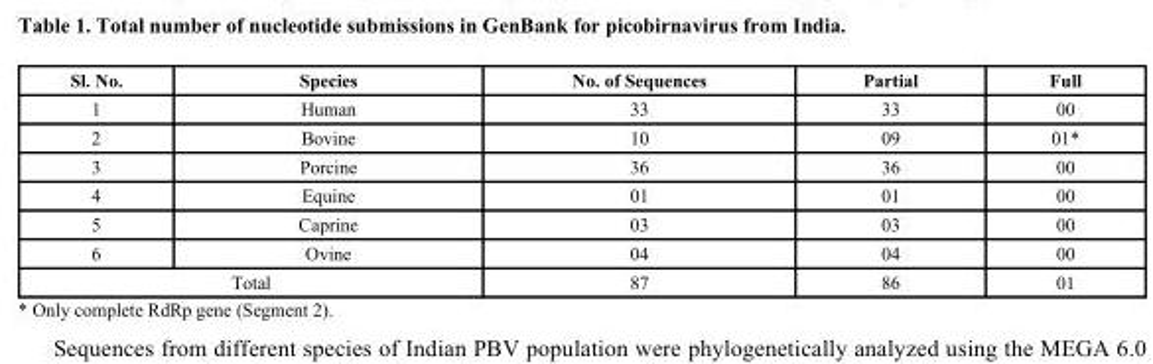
<table><thead><tr><td>Sl. No.</td><td>Species</td><td>No. of Sequences</td><td>Partial</td><td>Full</td></tr></thead><tbody><tr><td>1</td><td>Human</td><td>33</td><td>33</td><td>00</td></tr><tr><td>2</td><td>Bovine</td><td>10</td><td>09</td><td>01*</td></tr><tr><td>3</td><td>Porcine</td><td>36</td><td>36</td><td>00</td></tr><tr><td>4</td><td>Equine</td><td>01</td><td>01</td><td>00</td></tr><tr><td>5</td><td>Caprine</td><td>03</td><td>03</td><td>00</td></tr><tr><td>6</td><td>Ovine</td><td>04</td><td>04</td><td>00</td></tr><tr><td colspan="2">Total</td><td>87</td><td>86</td><td>01</td></tr></tbody></table>